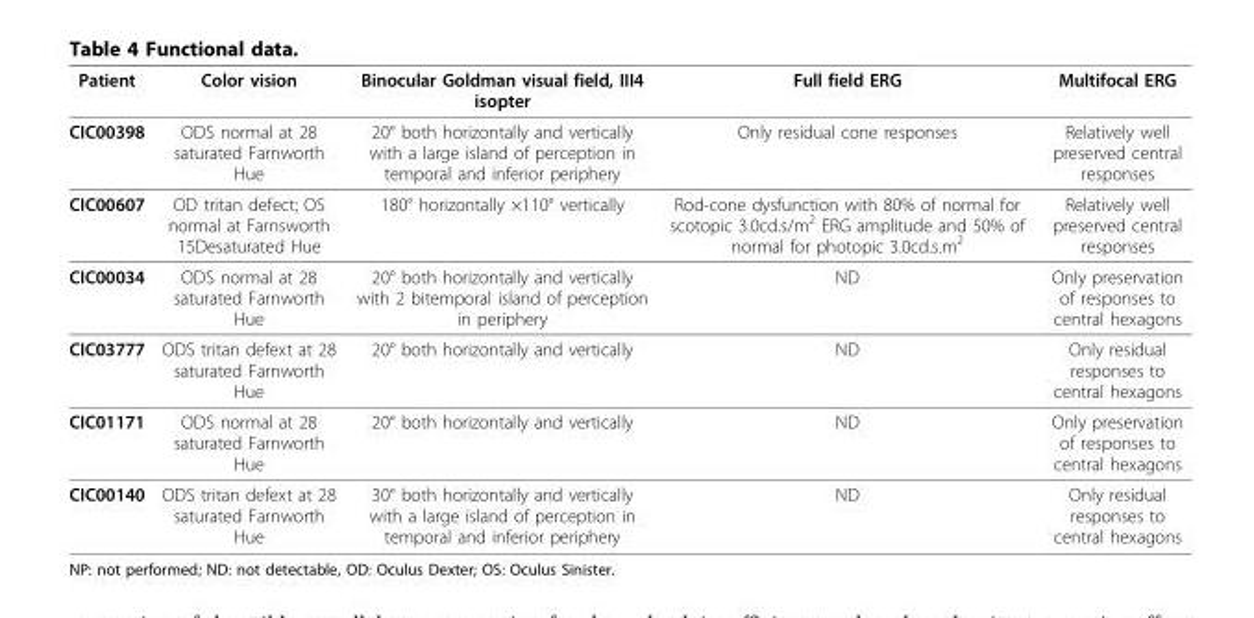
<table><thead><tr><td>Patient</td><td>Color vision</td><td>Binocular Goldman visual field, III4 isopter</td><td>Full field ERG</td><td>Multifocal ERG</td></tr></thead><tbody><tr><td>CIC00398</td><td>ODS normal at 28 saturated Farnworth Hue</td><td>20° both horizontally and vertically with a large island of perception in temporal and inferior periphery</td><td>Only residual cone responses</td><td>Relatively well preserved central responses</td></tr><tr><td>CIC00607</td><td>OD tritan defect; OS normal at Farnsworth 15Desaturated Hue</td><td>180° horizontally ×110° vertically</td><td>Rod-cone dysfunction with 80% of normal for scotopic 3.0cd.s/m<sup>2</sup> ERG amplitude and 50% of normal for photopic 3.0cd.s.m<sup>2</sup></td><td>Relatively well preserved central responses</td></tr><tr><td>CIC00034</td><td>ODS normal at 28 saturated Farnworth Hue</td><td>20° both horizontally and vertically with 2 bitemporal island of perception in periphery</td><td>ND</td><td>Only preservation of responses to central hexagons</td></tr><tr><td>CIC03777</td><td>ODS tritan defext at 28 saturated Farnworth Hue</td><td>20° both horizontally and vertically</td><td>ND</td><td>Only residual responses to central hexagons</td></tr><tr><td>CIC01171</td><td>ODS normal at 28 saturated Farnworth Hue</td><td>20° both horizontally and vertically</td><td>ND</td><td>Only preservation of responses to central hexagons</td></tr><tr><td>CIC00140</td><td>ODS tritan defext at 28 saturated Farnworth Hue</td><td>30° both horizontally and vertically with a large island of perception in temporal and inferior periphery</td><td>ND</td><td>Only residual responses to central hexagons</td></tr></tbody></table>